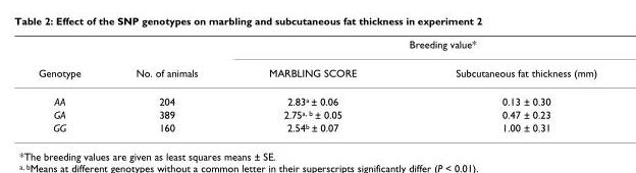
<table><thead><tr><td rowspan="2">Genotype</td><td rowspan="2">No. of animals</td><td colspan="2">Breeding value*</td></tr><tr><td>MARBLING SCORE</td><td>Subcutaneous fat thickness (mm)</td></tr></thead><tbody><tr><td>AA</td><td>204</td><td>2.83<sup>a</sup> ± 0.06</td><td>0.13 ± 0.30</td></tr><tr><td>GA</td><td>389</td><td>2.75<sup>a, b</sup> ± 0.05</td><td>0.47 ± 0.23</td></tr><tr><td>GG</td><td>160</td><td>2.54<sup>b</sup> ± 0.07</td><td>1.00 ± 0.31</td></tr></tbody></table>